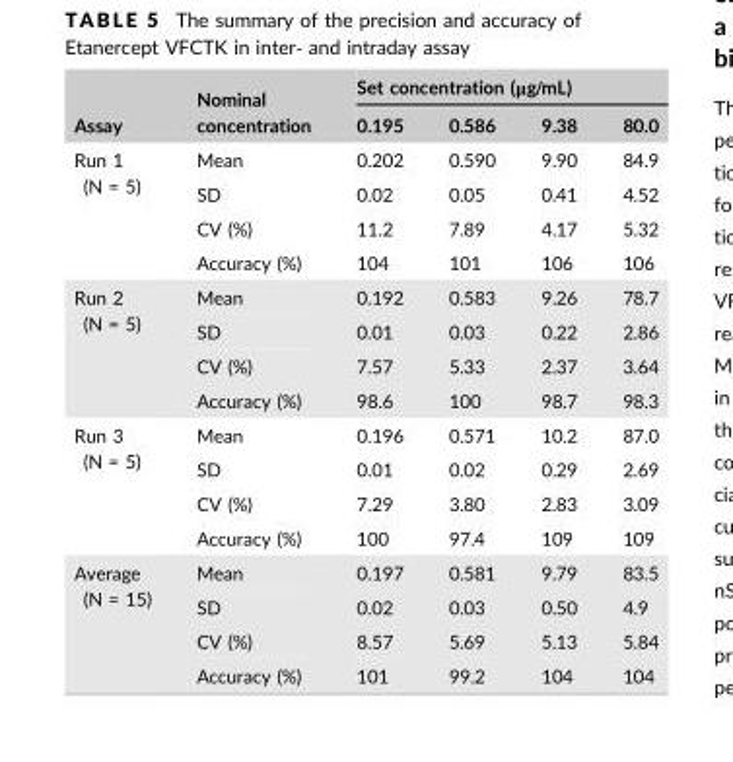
<table><thead><tr><td rowspan="2">Assay</td><td rowspan="2">Nominal concentration</td><td colspan="4">Set concentration (μg/mL)</td></tr><tr><td>0.195</td><td>0.586</td><td>9.38</td><td>80.0</td></tr></thead><tbody><tr><td rowspan="4">Run 1 (N = 5)</td><td>Mean</td><td>0.202</td><td>0.590</td><td>9.90</td><td>84.9</td></tr><tr><td>SD</td><td>0.02</td><td>0.05</td><td>0.41</td><td>4.52</td></tr><tr><td>CV (%)</td><td>11.2</td><td>7.89</td><td>4.17</td><td>5.32</td></tr><tr><td>Accuracy (%)</td><td>104</td><td>101</td><td>106</td><td>106</td></tr><tr><td rowspan="4">Run 2 (N = 5)</td><td>Mean</td><td>0.192</td><td>0.583</td><td>9.26</td><td>78.7</td></tr><tr><td>SD</td><td>0.01</td><td>0.03</td><td>0.22</td><td>2.86</td></tr><tr><td>CV (%)</td><td>7.57</td><td>5.33</td><td>2.37</td><td>3.64</td></tr><tr><td>Accuracy (%)</td><td>98.6</td><td>100</td><td>98.7</td><td>98.3</td></tr><tr><td rowspan="4">Run 3 (N = 5)</td><td>Mean</td><td>0.196</td><td>0.571</td><td>10.2</td><td>87.0</td></tr><tr><td>SD</td><td>0.01</td><td>0.02</td><td>0.29</td><td>2.69</td></tr><tr><td>CV (%)</td><td>7.29</td><td>3.80</td><td>2.83</td><td>3.09</td></tr><tr><td>Accuracy (%)</td><td>100</td><td>97.4</td><td>109</td><td>109</td></tr><tr><td rowspan="4">Average (N = 15)</td><td>Mean</td><td>0.197</td><td>0.581</td><td>9.79</td><td>83.5</td></tr><tr><td>SD</td><td>0.02</td><td>0.03</td><td>0.50</td><td>4.9</td></tr><tr><td>CV (%)</td><td>8.57</td><td>5.69</td><td>5.13</td><td>5.84</td></tr><tr><td>Accuracy (%)</td><td>101</td><td>99.2</td><td>104</td><td>104</td></tr></tbody></table>